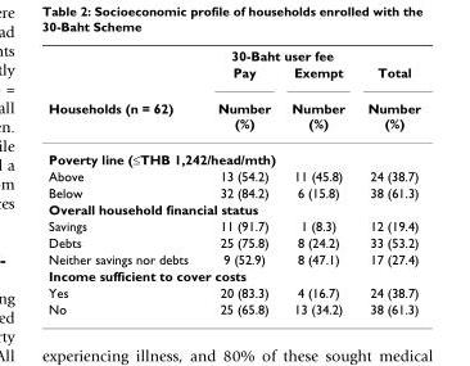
<table><thead><tr><td rowspan="3">Households (n = 62)</td><td colspan="2">30-Baht user fee</td><td rowspan="3">Total Number (%)</td></tr><tr><td rowspan="2">Pay Number (%)</td><td rowspan="2">Exempt Number (%)</td></tr><tr></tr></thead><tbody><tr><td colspan="4">Poverty line (≤THB 1,242/head/mth)</td></tr><tr><td>Above</td><td>13 (54.2)</td><td>11 (45.8)</td><td>24 (38.7)</td></tr><tr><td>Below</td><td>32 (84.2)</td><td>6 (15.8)</td><td>38 (61.3)</td></tr><tr><td colspan="4">Overall household financial status</td></tr><tr><td>Savings</td><td>11 (91.7)</td><td>1 (8.3)</td><td>12 (19.4)</td></tr><tr><td>Debts</td><td>25 (75.8)</td><td>8 (24.2)</td><td>33 (53.2)</td></tr><tr><td>Neither savings nor debts</td><td>9 (52.9)</td><td>8 (47.1)</td><td>17 (27.4)</td></tr><tr><td colspan="4">Income sufficient to cover costs</td></tr><tr><td>Yes</td><td>20 (83.3)</td><td>4 (16.7)</td><td>24 (38.7)</td></tr><tr><td>No</td><td>25 (65.8)</td><td>13 (34.2)</td><td>38 (61.3)</td></tr></tbody></table>